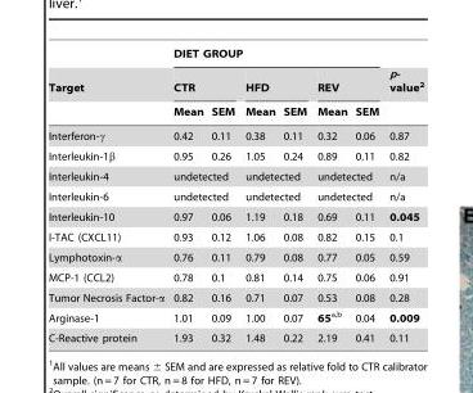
<table><thead><tr><td rowspan="3">Target</td><td colspan="6">DIET GROUP</td><td rowspan="3">p- value<sup>2</sup></td></tr><tr><td colspan="2">CTR</td><td colspan="2">HFD</td><td colspan="2">REV</td></tr><tr><td>Mean</td><td>SEM</td><td>Mean</td><td>SEM</td><td>Mean</td><td>SEM</td></tr></thead><tbody><tr><td>Interferon-γ</td><td>0.42</td><td>0.11</td><td>0.38</td><td>0.11</td><td>0.32</td><td>0.06</td><td>0.87</td></tr><tr><td>Interleukin-1β</td><td>0.95</td><td>0.26</td><td>1.05</td><td>0.24</td><td>0.89</td><td>0.11</td><td>0.82</td></tr><tr><td>Interleukin-4</td><td colspan="2">undetected</td><td colspan="2">undetected</td><td colspan="2">undetected</td><td>n/a</td></tr><tr><td>Interleukin-6</td><td colspan="2">undetected</td><td colspan="2">undetected</td><td colspan="2">undetected</td><td>n/a</td></tr><tr><td>Interleukin-10</td><td>0.97</td><td>0.06</td><td>1.19</td><td>0.18</td><td>0.69</td><td>0.11</td><td>0.045</td></tr><tr><td>I-TAC (CXCL11)</td><td>0.93</td><td>0.12</td><td>1.06</td><td>0.08</td><td>0.82</td><td>0.15</td><td>0.1</td></tr><tr><td>Lymphotoxin-α</td><td>0.76</td><td>0.11</td><td>0.79</td><td>0.08</td><td>0.77</td><td>0.05</td><td>0.59</td></tr><tr><td>MCP-1 (CCL2)</td><td>0.78</td><td>0.1</td><td>0.81</td><td>0.14</td><td>0.75</td><td>0.06</td><td>0.91</td></tr><tr><td>Tumor Necrosis Factor-α</td><td>0.82</td><td>0.16</td><td>0.71</td><td>0.07</td><td>0.53</td><td>0.08</td><td>0.28</td></tr><tr><td>Arginase-1</td><td>1.01</td><td>0.09</td><td>1.00</td><td>0.07</td><td>65a<sup>,</sup>b</td><td>0.04</td><td>0.009</td></tr><tr><td>C-Reactive protein</td><td>1.93</td><td>0.32</td><td>1.48</td><td>0.22</td><td>2.19</td><td>0.41</td><td>0.11</td></tr></tbody></table>